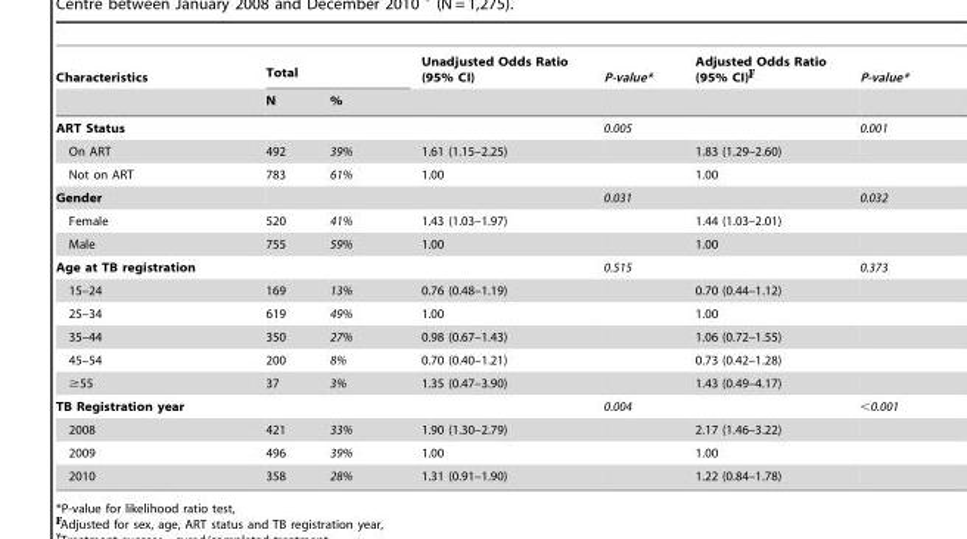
<table><thead><tr><td rowspan="2">Characteristics</td><td colspan="2">Total</td><td rowspan="2">Unadjusted Odds Ratio (95% CI)</td><td rowspan="2">P-value*</td><td rowspan="2">Adjusted Odds Ratio (95% CI)</td><td rowspan="2">P-value*</td></tr><tr><td>N</td><td>%</td></tr></thead><tbody><tr><td>ART Status</td><td></td><td></td><td></td><td>0.005</td><td></td><td>0.001</td></tr><tr><td>On ART</td><td>492</td><td>39%</td><td>1.61 (1.15–2.25)</td><td></td><td>1.83 (1.29–2.60)</td><td></td></tr><tr><td>Not on ART</td><td>783</td><td>61%</td><td>1.00</td><td></td><td>1.00</td><td></td></tr><tr><td>Gender</td><td></td><td></td><td></td><td>0.031</td><td></td><td>0.032</td></tr><tr><td>Female</td><td>520</td><td>41%</td><td>1.43 (1.03–1.97)</td><td></td><td>1.44 (1.03–2.01)</td><td></td></tr><tr><td>Male</td><td>755</td><td>59%</td><td>1.00</td><td></td><td>1.00</td><td></td></tr><tr><td>Age at TB registration</td><td></td><td></td><td></td><td>0.515</td><td></td><td>0.373</td></tr><tr><td>15–24</td><td>169</td><td>13%</td><td>0.76 (0.48–1.19)</td><td></td><td>0.70 (0.44–1.12)</td><td></td></tr><tr><td>25–34</td><td>619</td><td>49%</td><td>1.00</td><td></td><td>1.00</td><td></td></tr><tr><td>35–44</td><td>350</td><td>27%</td><td>0.98 (0.67–1.43)</td><td></td><td>1.06 (0.72–1.55)</td><td></td></tr><tr><td>45–54</td><td>200</td><td>8%</td><td>0.70 (0.40–1.21)</td><td></td><td>0.73 (0.42–1.28)</td><td></td></tr><tr><td>≥55</td><td>37</td><td>3%</td><td>1.35 (0.47–3.90)</td><td></td><td>1.43 (0.49–4.17)</td><td></td></tr><tr><td>TB Registration year</td><td></td><td></td><td></td><td>0.004</td><td></td><td>&lt;0.001</td></tr><tr><td>2008</td><td>421</td><td>33%</td><td>1.90 (1.30–2.79)</td><td></td><td>2.17 (1.46–3.22)</td><td></td></tr><tr><td>2009</td><td>496</td><td>39%</td><td>1.00</td><td></td><td>1.00</td><td></td></tr><tr><td>2010</td><td>358</td><td>28%</td><td>1.31 (0.91–1.90)</td><td></td><td>1.22 (0.84–1.78)</td><td></td></tr></tbody></table>